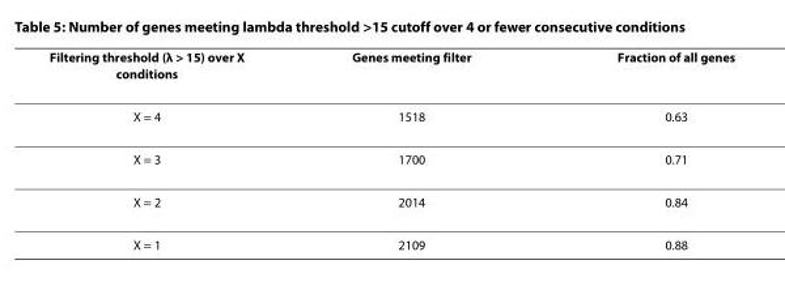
<table><thead><tr><td>Filtering threshold (λ &gt; 15) over X conditions</td><td>Genes meeting filter</td><td>Fraction of all genes</td></tr></thead><tbody><tr><td>X = 4</td><td>1518</td><td>0.63</td></tr><tr><td>X = 3</td><td>1700</td><td>0.71</td></tr><tr><td>X = 2</td><td>2014</td><td>0.84</td></tr><tr><td>X = 1</td><td>2109</td><td>0.88</td></tr></tbody></table>